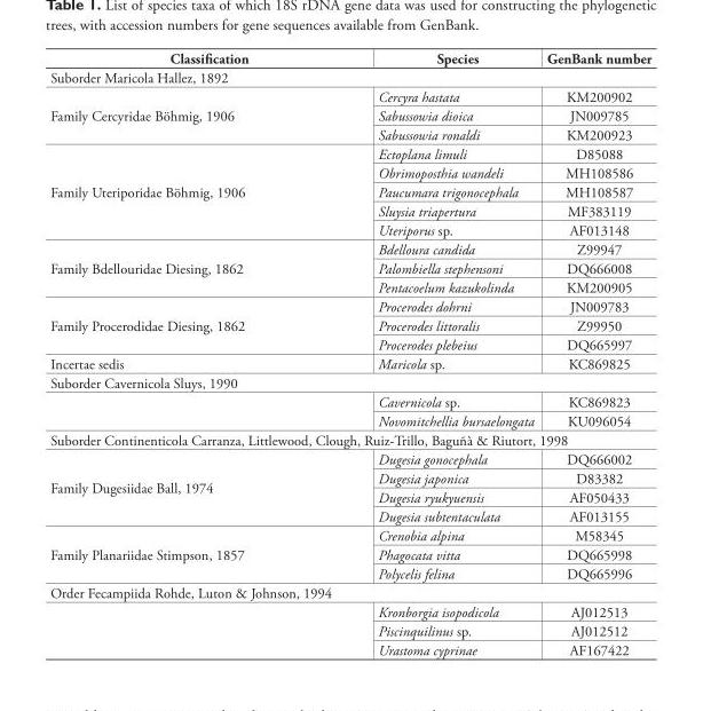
<table><thead><tr><td>Classification</td><td>Species</td><td>GenBank number</td></tr></thead><tbody><tr><td colspan="3">Suborder Maricola Hallez, 1892</td></tr><tr><td rowspan="3">Family Cercyridae Böhmig, 1906</td><td>Cercyra hastata</td><td>KM200902</td></tr><tr><td>Sabussowia dioica</td><td>JN009785</td></tr><tr><td>Sabussowia ronaldi</td><td>KM200923</td></tr><tr><td rowspan="5">Family Uteriporidae Böhmig, 1906</td><td>Ectoplana limuli</td><td>D85088</td></tr><tr><td>Obrimoposthia wandeli</td><td>MH108586</td></tr><tr><td>Paucumara trigonocephala</td><td>MH108587</td></tr><tr><td>Sluysia triapertura</td><td>MF383119</td></tr><tr><td>Uteriporus sp.</td><td>AF013148</td></tr><tr><td rowspan="3">Family Bdellouridae Diesing, 1862</td><td>Bdelloura candida</td><td>Z99947</td></tr><tr><td>Palombiella stephensoni</td><td>DQ666008</td></tr><tr><td>Pentacoelum kazukolinda</td><td>KM200905</td></tr><tr><td rowspan="3">Family Procerodidae Diesing, 1862</td><td>Procerodes dohrni</td><td>JN009783</td></tr><tr><td>Procerodes littoralis</td><td>Z99950</td></tr><tr><td>Procerodes plebeius</td><td>DQ665997</td></tr><tr><td>Incertae sedis</td><td>Maricola sp.</td><td>KC869825</td></tr><tr><td colspan="3">Suborder Cavernicola Sluys, 1990</td></tr><tr><td rowspan="2"></td><td>Cavernicola sp.</td><td>KC869823</td></tr><tr><td>Novomitchellia bursaelongata</td><td>KU096054</td></tr><tr><td colspan="3">Suborder Continenticola Carranza, Littlewood, Clough, Ruiz-Trillo, Baguñà &amp; Riutort, 1998</td></tr><tr><td rowspan="4">Family Dugesiidae Ball, 1974</td><td>Dugesia gonocephala</td><td>DQ666002</td></tr><tr><td>Dugesia japonica</td><td>D83382</td></tr><tr><td>Dugesia ryukyuensis</td><td>AF050433</td></tr><tr><td>Dugesia subtentaculata</td><td>AF013155</td></tr><tr><td rowspan="3">Family Planariidae Stimpson, 1857</td><td>Crenobia alpina</td><td>M58345</td></tr><tr><td>Phagocata vitta</td><td>DQ665998</td></tr><tr><td>Polycelis felina</td><td>DQ665996</td></tr><tr><td colspan="3">Order Fecampiida Rohde, Luton &amp; Johnson, 1994</td></tr><tr><td rowspan="3"></td><td>Kronborgia isopodicola</td><td>AJ012513</td></tr><tr><td>Piscinquilinus sp.</td><td>AJ012512</td></tr><tr><td>Urastoma cyprinae</td><td>AF167422</td></tr></tbody></table>